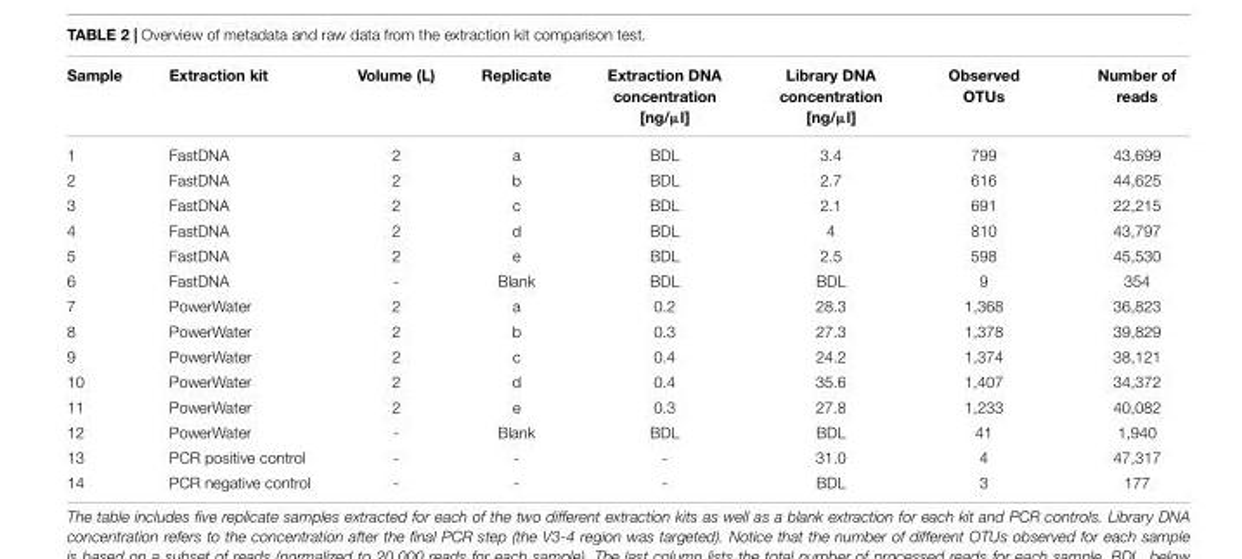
<table><thead><tr><td>Sample</td><td>Extraction kit</td><td>Volume (L)</td><td>Replicate</td><td>Extraction DNA concentration [ng/µl]</td><td>Library DNA concentration [ng/µl]</td><td>Observed OTUs</td><td>Number of reads</td></tr></thead><tbody><tr><td>1</td><td>FastDNA</td><td>2</td><td>a</td><td>BDL</td><td>3.4</td><td>799</td><td>43,699</td></tr><tr><td>2</td><td>FastDNA</td><td>2</td><td>b</td><td>BDL</td><td>2.7</td><td>616</td><td>44,625</td></tr><tr><td>3</td><td>FastDNA</td><td>2</td><td>c</td><td>BDL</td><td>2.1</td><td>691</td><td>22,215</td></tr><tr><td>4</td><td>FastDNA</td><td>2</td><td>d</td><td>BDL</td><td>4</td><td>810</td><td>43,797</td></tr><tr><td>5</td><td>FastDNA</td><td>2</td><td>e</td><td>BDL</td><td>2.5</td><td>598</td><td>45,530</td></tr><tr><td>6</td><td>FastDNA</td><td>-</td><td>Blank</td><td>BDL</td><td>BDL</td><td>9</td><td>354</td></tr><tr><td>7</td><td>PowerWater</td><td>2</td><td>a</td><td>0.2</td><td>28.3</td><td>1,368</td><td>36,823</td></tr><tr><td>8</td><td>PowerWater</td><td>2</td><td>b</td><td>0.3</td><td>27.3</td><td>1,378</td><td>39,829</td></tr><tr><td>9</td><td>PowerWater</td><td>2</td><td>c</td><td>0.4</td><td>24.2</td><td>1,374</td><td>38,121</td></tr><tr><td>10</td><td>PowerWater</td><td>2</td><td>d</td><td>0.4</td><td>35.6</td><td>1,407</td><td>34,372</td></tr><tr><td>11</td><td>PowerWater</td><td>2</td><td>e</td><td>0.3</td><td>27.8</td><td>1,233</td><td>40,082</td></tr><tr><td>12</td><td>PowerWater</td><td>-</td><td>Blank</td><td>BDL</td><td>BDL</td><td>41</td><td>1,940</td></tr><tr><td>13</td><td>PCR positive control</td><td>-</td><td>-</td><td>-</td><td>31.0</td><td>4</td><td>47,317</td></tr><tr><td>14</td><td>PCR negative control</td><td>-</td><td>-</td><td>-</td><td>BDL</td><td>3</td><td>177</td></tr></tbody></table>